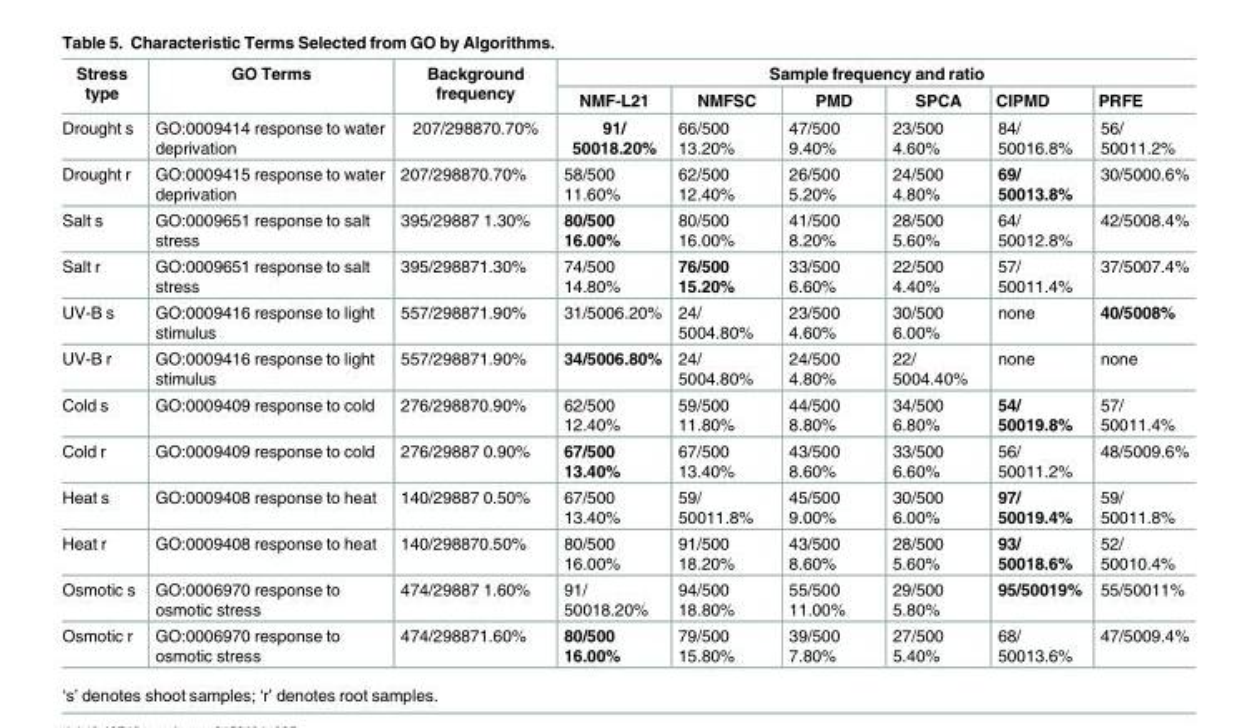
<table><thead><tr><td rowspan="2">Stress type</td><td rowspan="2">GO Terms</td><td rowspan="2">Background frequency</td><td colspan="6">Sample frequency and ratio</td></tr><tr><td>NMF-L21</td><td>NMFSC</td><td>PMD</td><td>SPCA</td><td>CIPMD</td><td>PRFE</td></tr></thead><tbody><tr><td>Drought s</td><td>GO:0009414 response to water deprivation</td><td>207/298870.70%</td><td>91/ 50018.20%</td><td>66/500 13.20%</td><td>47/500 9.40%</td><td>23/500 4.60%</td><td>84/ 50016.8%</td><td>56/ 50011.2%</td></tr><tr><td>Drought r</td><td>GO:0009415 response to water deprivation</td><td>207/298870.70%</td><td>58/500 11.60%</td><td>62/500 12.40%</td><td>26/500 5.20%</td><td>24/500 4.80%</td><td>69/ 50013.8%</td><td>30/5000.6%</td></tr><tr><td>Salt s</td><td>GO:0009651 response to salt stress</td><td>395/29887 1.30%</td><td>80/500 16.00%</td><td>80/500 16.00%</td><td>41/500 8.20%</td><td>28/500 5.60%</td><td>64/ 50012.8%</td><td>42/5008.4%</td></tr><tr><td>Salt r</td><td>GO:0009651 response to salt stress</td><td>395/298871.30%</td><td>74/500 14.80%</td><td>76/500 15.20%</td><td>33/500 6.60%</td><td>22/500 4.40%</td><td>57/ 50011.4%</td><td>37/5007.4%</td></tr><tr><td>UV-B s</td><td>GO:0009416 response to light stimulus</td><td>557/298871.90%</td><td>31/5006.20%</td><td>24/ 5004.80%</td><td>23/500 4.60%</td><td>30/500 6.00%</td><td>none</td><td>40/5008%</td></tr><tr><td>UV-B r</td><td>GO:0009416 response to light stimulus</td><td>557/298871.90%</td><td>34/5006.80%</td><td>24/ 5004.80%</td><td>24/500 4.80%</td><td>22/ 5004.40%</td><td>none</td><td>none</td></tr><tr><td>Cold s</td><td>GO:0009409 response to cold</td><td>276/298870.90%</td><td>62/500 12.40%</td><td>59/500 11.80%</td><td>44/500 8.80%</td><td>34/500 6.80%</td><td>54/ 50019.8%</td><td>57/ 50011.4%</td></tr><tr><td>Cold r</td><td>GO:0009409 response to cold</td><td>276/29887 0.90%</td><td>67/500 13.40%</td><td>67/500 13.40%</td><td>43/500 8.60%</td><td>33/500 6.60%</td><td>56/ 50011.2%</td><td>48/5009.6%</td></tr><tr><td>Heat s</td><td>GO:0009408 response to heat</td><td>140/29887 0.50%</td><td>67/500 13.40%</td><td>59/ 50011.8%</td><td>45/500 9.00%</td><td>30/500 6.00%</td><td>97/ 50019.4%</td><td>59/ 50011.8%</td></tr><tr><td>Heat r</td><td>GO:0009408 response to heat</td><td>140/298870.50%</td><td>80/500 16.00%</td><td>91/500 18.20%</td><td>43/500 8.60%</td><td>28/500 5.60%</td><td>93/ 50018.6%</td><td>52/ 50010.4%</td></tr><tr><td>Osmotic s</td><td>GO:0006970 response to osmotic stress</td><td>474/29887 1.60%</td><td>91/ 50018.20%</td><td>94/500 18.80%</td><td>55/500 11.00%</td><td>29/500 5.80%</td><td>95/50019%</td><td>55/50011%</td></tr><tr><td>Osmotic r</td><td>GO:0006970 response to osmotic stress</td><td>474/298871.60%</td><td>80/500 16.00%</td><td>79/500 15.80%</td><td>39/500 7.80%</td><td>27/500 5.40%</td><td>68/ 50013.6%</td><td>47/5009.4%</td></tr></tbody></table>